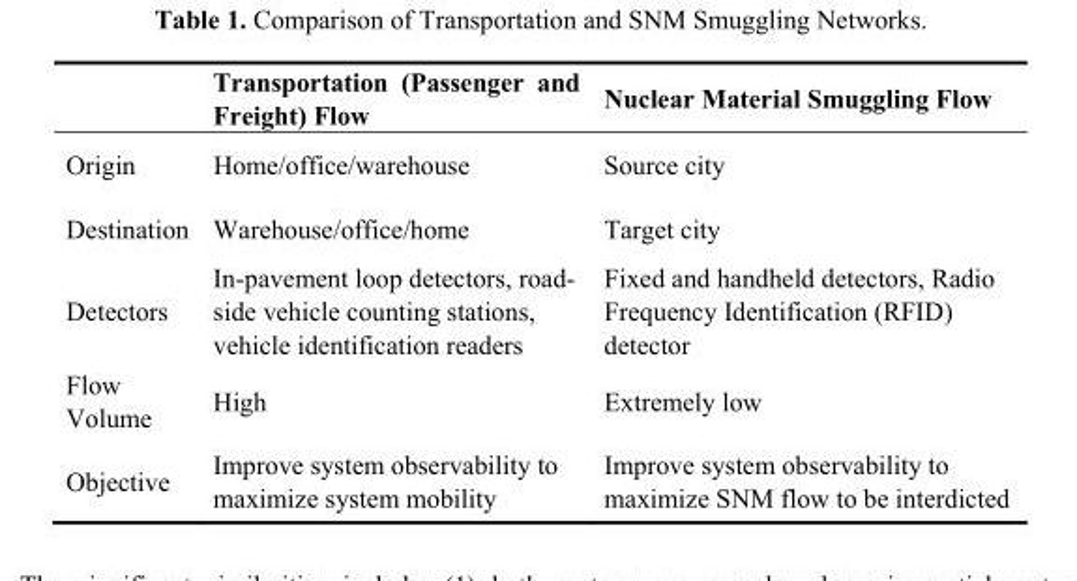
<table><thead><tr><td></td><td>Transportation (Passenger and Freight) Flow</td><td>Nuclear Material Smuggling Flow</td></tr></thead><tbody><tr><td>Origin</td><td>Home/office/warehouse</td><td>Source city</td></tr><tr><td>Destination</td><td>Warehouse/office/home</td><td>Target city</td></tr><tr><td>Detectors</td><td>In-pavement loop detectors, road- side vehicle counting stations, vehicle identification readers</td><td>Fixed and handheld detectors, Radio Frequency Identification (RFID) detector</td></tr><tr><td>Flow Volume</td><td>High</td><td>Extremely low</td></tr><tr><td>Objective</td><td>Improve system observability to maximize system mobility</td><td>Improve system observability to maximize SNM flow to be interdicted</td></tr></tbody></table>